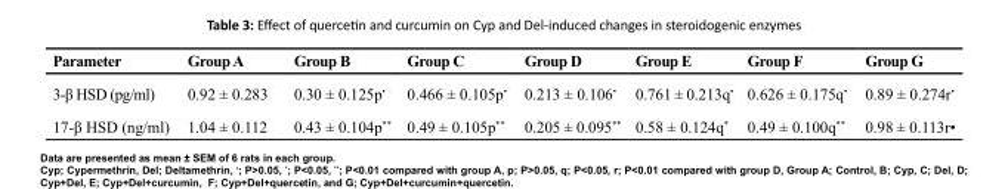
<table><thead><tr><td>Parameter</td><td>Group A</td><td>Group B</td><td>Group C</td><td>Group D</td><td>Group E</td><td>Group F</td><td>Group G</td></tr></thead><tbody><tr><td>3-β HSD (pg/ml)</td><td>0.92 ± 0.283</td><td>0.30 ± 0.125p<sup>•</sup></td><td>0.466 ± 0.105p<sup>•</sup></td><td>0.213 ± 0.106<sup>•</sup></td><td>0.761 ± 0.213q<sup>•</sup></td><td>0.626 ± 0.175q<sup>•</sup></td><td>0.89 ± 0.274r<sup>•</sup></td></tr><tr><td>17-β HSD (ng/ml)</td><td>1.04 ± 0.112</td><td>0.43 ± 0.104p**</td><td>0.49 ± 0.105p**</td><td>0.205 ± 0.095**</td><td>0.58 ± 0.124q*</td><td>0.49 ± 0.100q**</td><td>0.98 ± 0.113r•</td></tr></tbody></table>